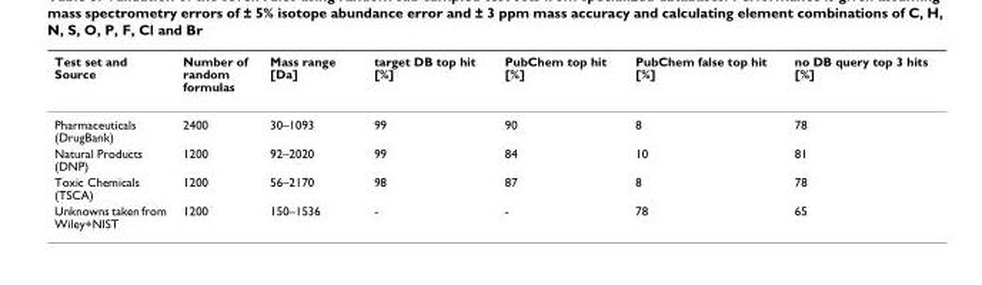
<table><thead><tr><td>Test set and Source</td><td>Number of random formulas</td><td>Mass range [Da]</td><td>target DB top hit [%]</td><td>PubChem top hit [%]</td><td>PubChem false top hit [%]</td><td>no DB query top 3 hits [%]</td></tr></thead><tbody><tr><td>Pharmaceuticals (DrugBank)</td><td>2400</td><td>30–1093</td><td>99</td><td>90</td><td>8</td><td>78</td></tr><tr><td>Natural Products (DNP)</td><td>1200</td><td>92–2020</td><td>99</td><td>84</td><td>10</td><td>81</td></tr><tr><td>Toxic Chemicals (TSCA)</td><td>1200</td><td>56–2170</td><td>98</td><td>87</td><td>8</td><td>78</td></tr><tr><td>Unknowns taken from Wiley+NIST</td><td>1200</td><td>150–1536</td><td>-</td><td>-</td><td>78</td><td>65</td></tr></tbody></table>